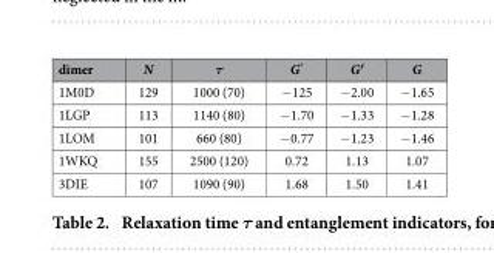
<table><thead><tr><td>dimer</td><td>N</td><td>τ</td><td>G*</td><td>G′</td><td>G</td></tr></thead><tbody><tr><td>1M0D</td><td>129</td><td>1000 (70)</td><td>− 125</td><td>− 2.00</td><td>− 1.65</td></tr><tr><td>1LGP</td><td>113</td><td>1140 (80)</td><td>− 1.70</td><td>− 1.33</td><td>− 1.28</td></tr><tr><td>1LOM</td><td>101</td><td>660 (80)</td><td>− 0.77</td><td>− 1.23</td><td>− 1.46</td></tr><tr><td>1WKQ</td><td>155</td><td>2500 (120)</td><td>0.72</td><td>1.13</td><td>1.07</td></tr><tr><td>3DIE</td><td>107</td><td>1090 (90)</td><td>1.68</td><td>1.50</td><td>1.41</td></tr></tbody></table>